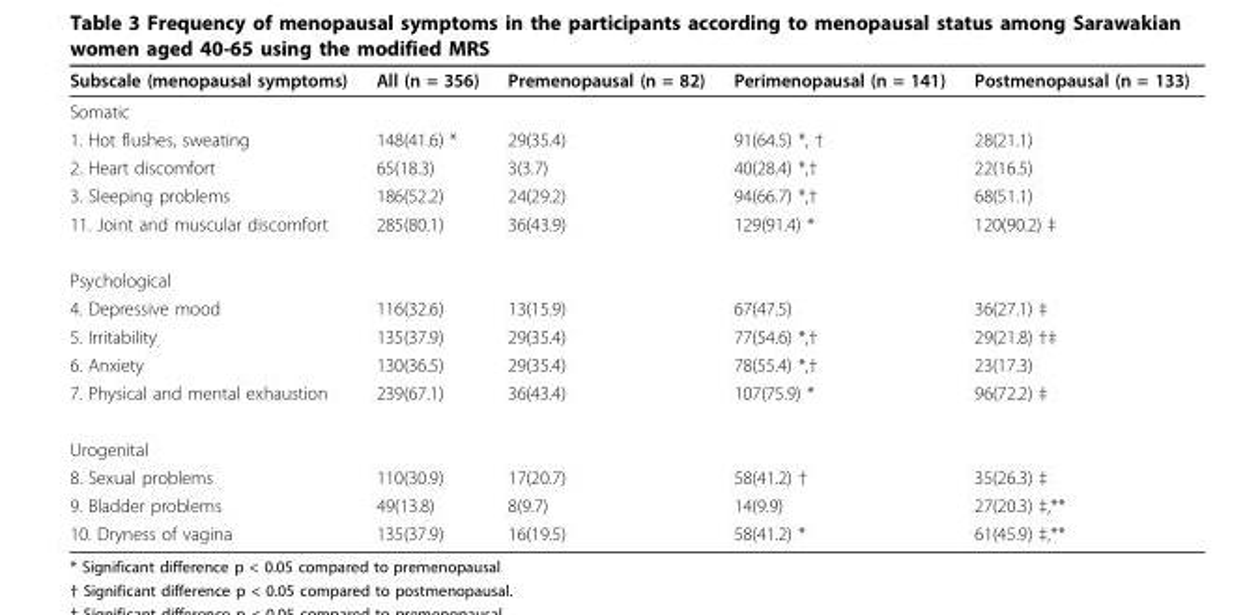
<table><thead><tr><td>Subscale (menopausal symptoms)</td><td>All (n = 356)</td><td>Premenopausal (n = 82)</td><td>Perimenopausal (n = 141)</td><td>Postmenopausal (n = 133)</td></tr></thead><tbody><tr><td colspan="5">Somatic</td></tr><tr><td>1. Hot flushes, sweating</td><td>148(41.6) *</td><td>29(35.4)</td><td>91(64.5) *, †</td><td>28(21.1)</td></tr><tr><td>2. Heart discomfort</td><td>65(18.3)</td><td>3(3.7)</td><td>40(28.4) *,†</td><td>22(16.5)</td></tr><tr><td>3. Sleeping problems</td><td>186(52.2)</td><td>24(29.2)</td><td>94(66.7) *,†</td><td>68(51.1)</td></tr><tr><td>11. Joint and muscular discomfort</td><td>285(80.1)</td><td>36(43.9)</td><td>129(91.4) *</td><td>120(90.2) ‡</td></tr><tr><td colspan="5">Psychological</td></tr><tr><td>4. Depressive mood</td><td>116(32.6)</td><td>13(15.9)</td><td>67(47.5)</td><td>36(27.1) ‡</td></tr><tr><td>5. Irritability</td><td>135(37.9)</td><td>29(35.4)</td><td>77(54.6) *,†</td><td>29(21.8) †‡</td></tr><tr><td>6. Anxiety</td><td>130(36.5)</td><td>29(35.4)</td><td>78(55.4) *,†</td><td>23(17.3)</td></tr><tr><td>7. Physical and mental exhaustion</td><td>239(67.1)</td><td>36(43.4)</td><td>107(75.9) *</td><td>96(72.2) ‡</td></tr><tr><td colspan="5">Urogenital</td></tr><tr><td>8. Sexual problems</td><td>110(30.9)</td><td>17(20.7)</td><td>58(41.2) †</td><td>35(26.3) ‡</td></tr><tr><td>9. Bladder problems</td><td>49(13.8)</td><td>8(9.7)</td><td>14(9.9)</td><td>27(20.3) ‡,**</td></tr><tr><td>10. Dryness of vagina</td><td>135(37.9)</td><td>16(19.5)</td><td>58(41.2) *</td><td>61(45.9) ‡,**</td></tr></tbody></table>